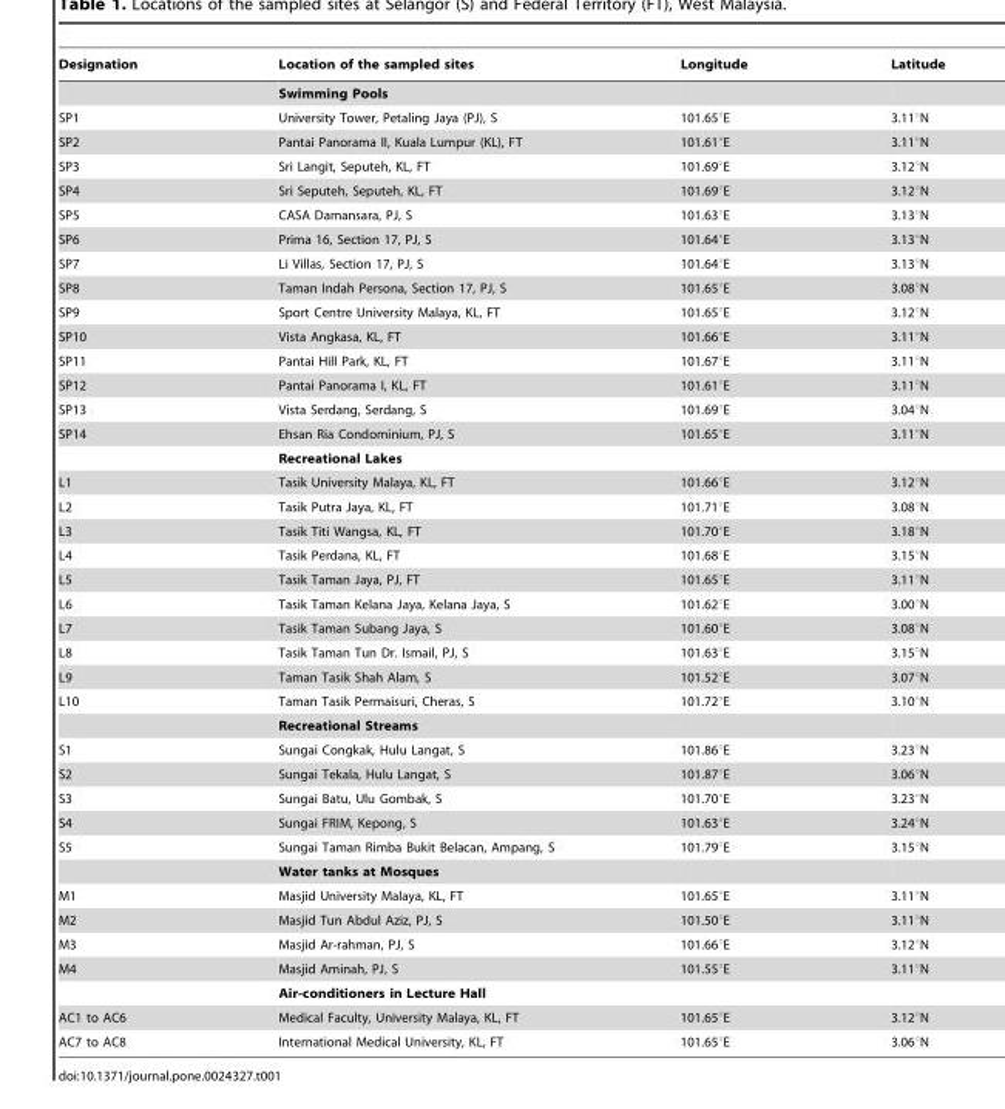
<table><thead><tr><td>Designation</td><td>Location of the sampled sites</td><td>Longitude</td><td>Latitude</td></tr></thead><tbody><tr><td></td><td>Swimming Pools</td><td></td><td></td></tr><tr><td>SP1</td><td>University Tower, Petaling Jaya (PJ), S</td><td>101.65°E</td><td>3.11°N</td></tr><tr><td>SP2</td><td>Pantai Panorama II, Kuala Lumpur (KL), FT</td><td>101.61°E</td><td>3.11°N</td></tr><tr><td>SP3</td><td>Sri Langit, Seputeh, KL, FT</td><td>101.69°E</td><td>3.12°N</td></tr><tr><td>SP4</td><td>Sri Seputeh, Seputeh, KL, FT</td><td>101.69°E</td><td>3.12°N</td></tr><tr><td>SP5</td><td>CASA Damansara, PJ, S</td><td>101.63°E</td><td>3.13°N</td></tr><tr><td>SP6</td><td>Prima 16, Section 17, PJ, S</td><td>101.64°E</td><td>3.13°N</td></tr><tr><td>SP7</td><td>Li Villas, Section 17, PJ, S</td><td>101.64°E</td><td>3.13°N</td></tr><tr><td>SP8</td><td>Taman Indah Persona, Section 17, PJ, S</td><td>101.65°E</td><td>3.08°N</td></tr><tr><td>SP9</td><td>Sport Centre University Malaya, KL, FT</td><td>101.65°E</td><td>3.12°N</td></tr><tr><td>SP10</td><td>Vista Angkasa, KL, FT</td><td>101.66°E</td><td>3.11°N</td></tr><tr><td>SP11</td><td>Pantai Hill Park, KL, FT</td><td>101.67°E</td><td>3.11°N</td></tr><tr><td>SP12</td><td>Pantai Panorama I, KL, FT</td><td>101.61°E</td><td>3.11°N</td></tr><tr><td>SP13</td><td>Vista Serdang, Serdang, S</td><td>101.69°E</td><td>3.04°N</td></tr><tr><td rowspan="2">SP14</td><td>Ehsan Ria Condominium, PJ, S</td><td>101.65°E</td><td>3.11°N</td></tr><tr><td>Recreational Lakes</td><td></td><td></td></tr><tr><td>L1</td><td>Tasik University Malaya, KL, FT</td><td>101.66°E</td><td>3.12°N</td></tr><tr><td>L2</td><td>Tasik Putra Jaya, KL, FT</td><td>101.71°E</td><td>3.08°N</td></tr><tr><td>L3</td><td>Tasik Titi Wangsa, KL, FT</td><td>101.70°E</td><td>3.18°N</td></tr><tr><td>L4</td><td>Tasik Perdana, KL, FT</td><td>101.68°E</td><td>3.15°N</td></tr><tr><td>L5</td><td>Tasik Taman Jaya, PJ, FT</td><td>101.65°E</td><td>3.11°N</td></tr><tr><td>L6</td><td>Tasik Taman Kelana Jaya, Kelana Jaya, S</td><td>101.62°E</td><td>3.00°N</td></tr><tr><td>L7</td><td>Tasik Taman Subang Jaya, S</td><td>101.60°E</td><td>3.08°N</td></tr><tr><td>L8</td><td>Tasik Taman Tun Dr. Ismail, PJ, S</td><td>101.63°E</td><td>3.15°N</td></tr><tr><td>L9</td><td>Taman Tasik Shah Alam, S</td><td>101.52°E</td><td>3.07°N</td></tr><tr><td rowspan="2">L10</td><td>Taman Tasik Permaisuri, Cheras, S</td><td>101.72°E</td><td>3.10°N</td></tr><tr><td>Recreational Streams</td><td></td><td></td></tr><tr><td>S1</td><td>Sungai Congkak, Hulu Langat, S</td><td>101.86°E</td><td>3.23°N</td></tr><tr><td>S2</td><td>Sungai Tekala, Hulu Langat, S</td><td>101.87°E</td><td>3.06°N</td></tr><tr><td>S3</td><td>Sungai Batu, Ulu Gombak, S</td><td>101.70°E</td><td>3.23°N</td></tr><tr><td>S4</td><td>Sungai FRIM, Kepong, S</td><td>101.63°E</td><td>3.24°N</td></tr><tr><td rowspan="2">S5</td><td>Sungai Taman Rimba Bukit Belacan, Ampang, S</td><td>101.79°E</td><td>3.15°N</td></tr><tr><td>Water tanks at Mosques</td><td></td><td></td></tr><tr><td>M1</td><td>Masjid University Malaya, KL, FT</td><td>101.65°E</td><td>3.11°N</td></tr><tr><td>M2</td><td>Masjid Tun Abdul Aziz, PJ, S</td><td>101.50°E</td><td>3.11°N</td></tr><tr><td>M3</td><td>Masjid Ar-rahman, PJ, S</td><td>101.66°E</td><td>3.12°N</td></tr><tr><td rowspan="2">M4</td><td>Masjid Aminah, PJ, S</td><td>101.55°E</td><td>3.11°N</td></tr><tr><td>Air-conditioners in Lecture Hall</td><td></td><td></td></tr><tr><td>AC1 to AC6</td><td>Medical Faculty, University Malaya, KL, FT</td><td>101.65°E</td><td>3.12°N</td></tr><tr><td>AC7 to AC8</td><td>International Medical University, KL, FT</td><td>101.65°E</td><td>3.06°N</td></tr></tbody></table>